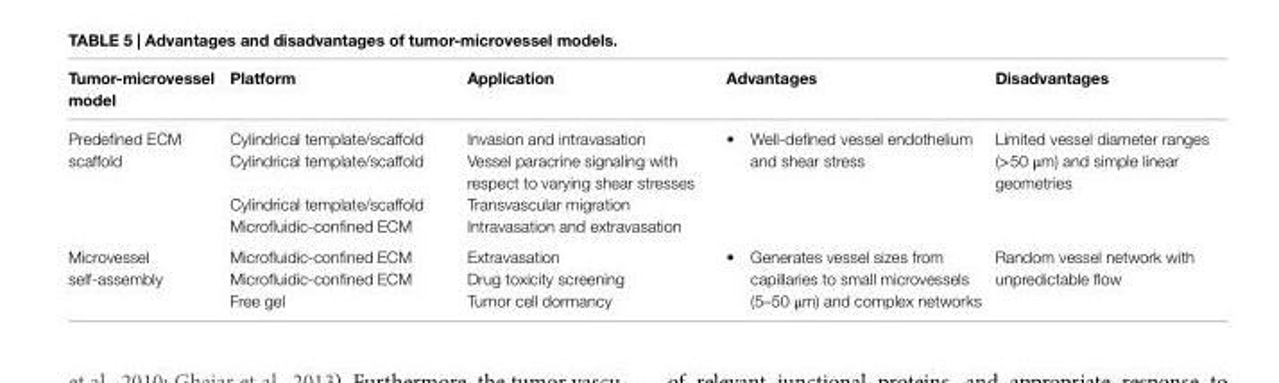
<table><thead><tr><td>Tumor-microvessel model</td><td>Platform</td><td>Application</td><td>Advantages</td><td>Disadvantages</td></tr></thead><tbody><tr><td rowspan="4">Predefined ECM scaffold</td><td>Cylindrical template/scaffold</td><td>Invasion and intravasation</td><td rowspan="4">• Well-defined vessel endothelium and shear stress</td><td rowspan="4">Limited vessel diameter ranges (&gt;50 μm) and simple linear geometries</td></tr><tr><td>Cylindrical template/scaffold</td><td>Vessel paracrine signaling with respect to varying shear stresses</td></tr><tr><td>Cylindrical template/scaffold</td><td>Transvascular migration</td></tr><tr><td>Microfluidic-confined ECM</td><td>Intravasation and extravasation</td></tr><tr><td rowspan="3">Microvessel self-assembly</td><td>Microfluidic-confined ECM</td><td>Extravasation</td><td rowspan="3">• Generates vessel sizes from capillaries to small microvessels (5–50 μm) and complex networks</td><td rowspan="3">Random vessel network with unpredictable flow</td></tr><tr><td>Microfluidic-confined ECM</td><td>Drug toxicity screening</td></tr><tr><td>Free gel</td><td>Tumor cell dormancy</td></tr></tbody></table>